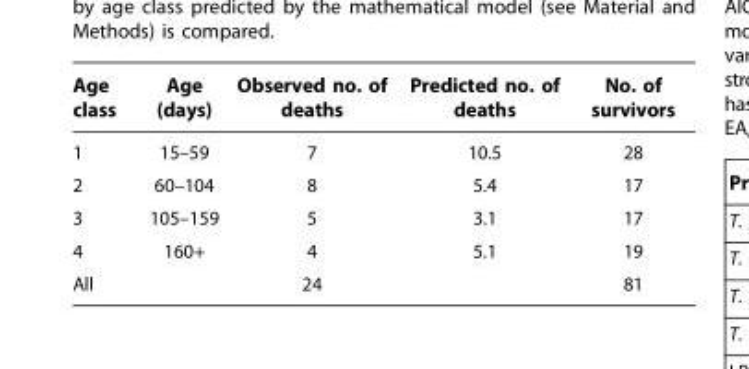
<table><thead><tr><td>Age class</td><td>Age (days)</td><td>Observed no. of deaths</td><td>Predicted no. of deaths</td><td>No. of survivors</td></tr></thead><tbody><tr><td>1</td><td>15–59</td><td>7</td><td>10.5</td><td>28</td></tr><tr><td>2</td><td>60–104</td><td>8</td><td>5.4</td><td>17</td></tr><tr><td>3</td><td>105–159</td><td>5</td><td>3.1</td><td>17</td></tr><tr><td>4</td><td>160+</td><td>4</td><td>5.1</td><td>19</td></tr><tr><td>All</td><td></td><td>24</td><td></td><td>81</td></tr></tbody></table>